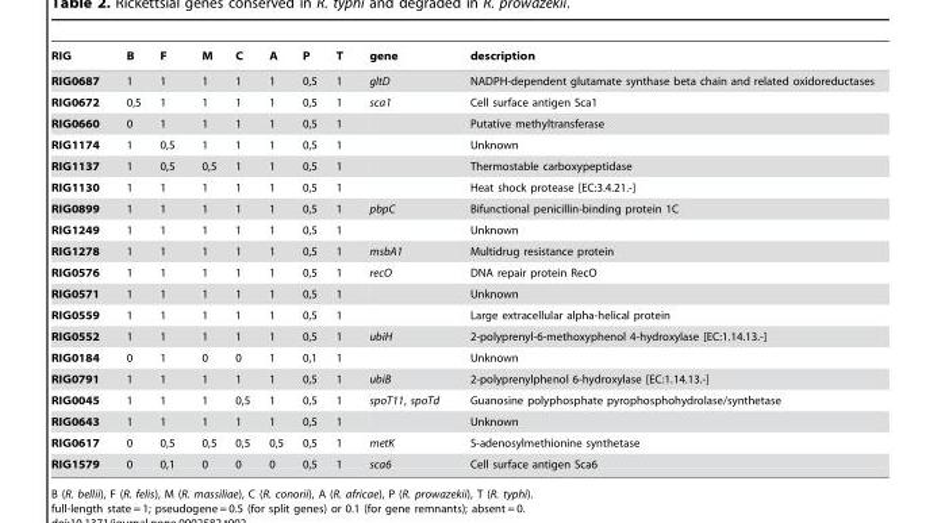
<table><thead><tr><td>RIG</td><td>B</td><td>F</td><td>M</td><td>C</td><td>A</td><td>P</td><td>T</td><td>gene</td><td>description</td></tr></thead><tbody><tr><td>RIG0687</td><td>1</td><td>1</td><td>1</td><td>1</td><td>1</td><td>0,5</td><td>1</td><td>gltD</td><td>NADPH-dependent glutamate synthase beta chain and related oxidoreductases</td></tr><tr><td>RIG0672</td><td>0,5</td><td>1</td><td>1</td><td>1</td><td>1</td><td>0,5</td><td>1</td><td>sca1</td><td>Cell surface antigen Sca1</td></tr><tr><td>RIG0660</td><td>0</td><td>1</td><td>1</td><td>1</td><td>1</td><td>0,5</td><td>1</td><td></td><td>Putative methyltransferase</td></tr><tr><td>RIG1174</td><td>1</td><td>0,5</td><td>1</td><td>1</td><td>1</td><td>0,5</td><td>1</td><td></td><td>Unknown</td></tr><tr><td>RIG1137</td><td>1</td><td>0,5</td><td>0,5</td><td>1</td><td>1</td><td>0,5</td><td>1</td><td></td><td>Thermostable carboxypeptidase</td></tr><tr><td>RIG1130</td><td>1</td><td>1</td><td>1</td><td>1</td><td>1</td><td>0,5</td><td>1</td><td></td><td>Heat shock protease [EC:3.4.21.-]</td></tr><tr><td>RIG0899</td><td>1</td><td>1</td><td>1</td><td>1</td><td>1</td><td>0,5</td><td>1</td><td>pbpC</td><td>Bifunctional penicillin-binding protein 1C</td></tr><tr><td>RIG1249</td><td>1</td><td>1</td><td>1</td><td>1</td><td>1</td><td>0,5</td><td>1</td><td></td><td>Unknown</td></tr><tr><td>RIG1278</td><td>1</td><td>1</td><td>1</td><td>1</td><td>1</td><td>0,5</td><td>1</td><td>msbA1</td><td>Multidrug resistance protein</td></tr><tr><td>RIG0576</td><td>1</td><td>1</td><td>1</td><td>1</td><td>1</td><td>0,5</td><td>1</td><td>recO</td><td>DNA repair protein RecO</td></tr><tr><td>RIG0571</td><td>1</td><td>1</td><td>1</td><td>1</td><td>1</td><td>0,5</td><td>1</td><td></td><td>Unknown</td></tr><tr><td>RIG0559</td><td>1</td><td>1</td><td>1</td><td>1</td><td>1</td><td>0,5</td><td>1</td><td></td><td>Large extracellular alpha-helical protein</td></tr><tr><td>RIG0552</td><td>1</td><td>1</td><td>1</td><td>1</td><td>1</td><td>0,5</td><td>1</td><td>ubiH</td><td>2-polyprenyl-6-methoxyphenol 4-hydroxylase [EC:1.14.13.-]</td></tr><tr><td>RIG0184</td><td>0</td><td>1</td><td>0</td><td>0</td><td>1</td><td>0,1</td><td>1</td><td></td><td>Unknown</td></tr><tr><td>RIG0791</td><td>1</td><td>1</td><td>1</td><td>1</td><td>1</td><td>0,5</td><td>1</td><td>ubiB</td><td>2-polyprenylphenol 6-hydroxylase [EC:1.14.13.-]</td></tr><tr><td>RIG0045</td><td>1</td><td>1</td><td>1</td><td>0,5</td><td>1</td><td>0,5</td><td>1</td><td>spoT11, spoTd</td><td>Guanosine polyphosphate pyrophosphohydrolase/synthetase</td></tr><tr><td>RIG0643</td><td>1</td><td>1</td><td>1</td><td>1</td><td>1</td><td>0,5</td><td>1</td><td></td><td>Unknown</td></tr><tr><td>RIG0617</td><td>0</td><td>0,5</td><td>0,5</td><td>0,5</td><td>0,5</td><td>0,5</td><td>1</td><td>metK</td><td>S-adenosylmethionine synthetase</td></tr><tr><td>RIG1579</td><td>0</td><td>0,1</td><td>0</td><td>0</td><td>0</td><td>0,5</td><td>1</td><td>sca6</td><td>Cell surface antigen Sca6</td></tr></tbody></table>